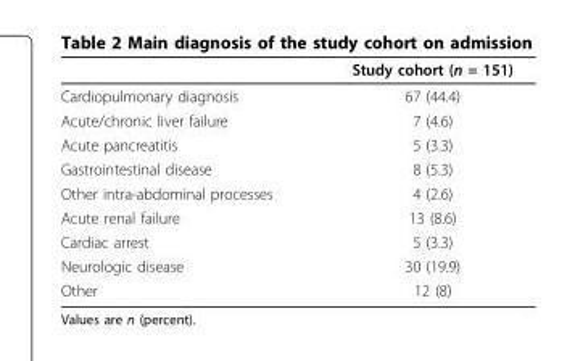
<table><thead><tr><td></td><td>Study cohort (n = 151)</td></tr></thead><tbody><tr><td>Cardiopulmonary diagnosis</td><td>67 (44.4)</td></tr><tr><td>Acute/chronic liver failure</td><td>7 (4.6)</td></tr><tr><td>Acute pancreatitis</td><td>5 (3.3)</td></tr><tr><td>Gastrointestinal disease</td><td>8 (5.3)</td></tr><tr><td>Other intra-abdominal processes</td><td>4 (2.6)</td></tr><tr><td>Acute renal failure</td><td>13 (8.6)</td></tr><tr><td>Cardiac arrest</td><td>5 (3.3)</td></tr><tr><td>Neurologic disease</td><td>30 (19.9)</td></tr><tr><td>Other</td><td>12 (8)</td></tr></tbody></table>